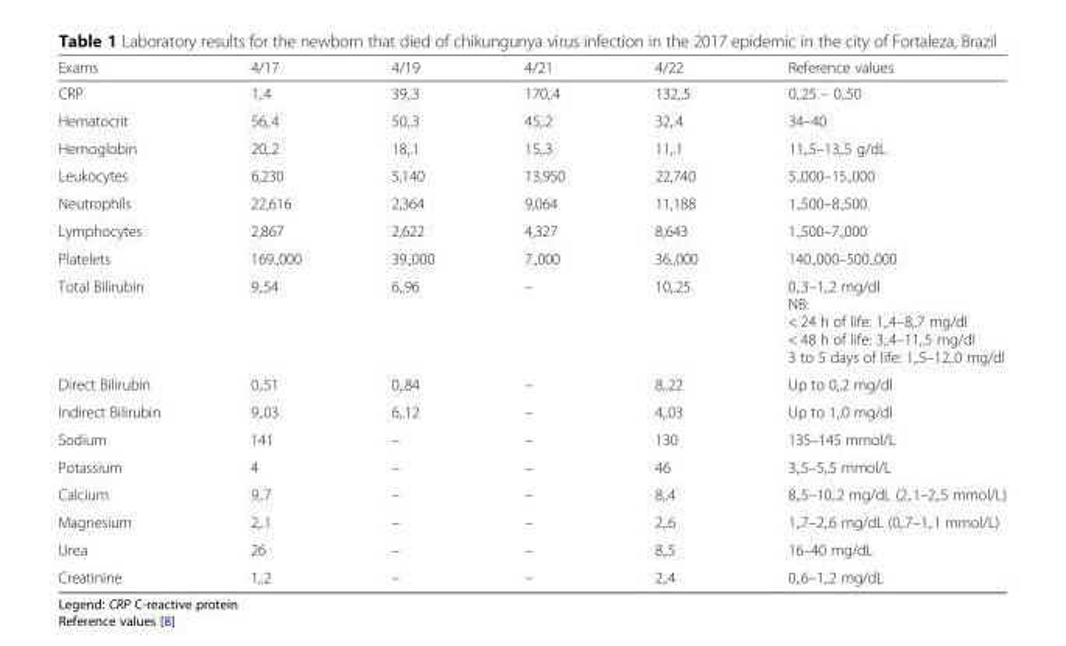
<table><thead><tr><td>Exams</td><td>4/17</td><td>4/19</td><td>4/21</td><td>4/22</td><td>Reference values</td></tr></thead><tbody><tr><td>CRP</td><td>1,.4</td><td>39,.3</td><td>170,.4</td><td>132,.5</td><td>0,.25 – 0,.50</td></tr><tr><td>Hematocrit</td><td>56,.4</td><td>50,.3</td><td>45,.2</td><td>32,.4</td><td>34–40</td></tr><tr><td>Hemoglobin</td><td>20,.2</td><td>18,.1</td><td>15,.3</td><td>11,.1</td><td>11,.5–13,.5 g/dL</td></tr><tr><td>Leukocytes</td><td>6,230</td><td>5,140</td><td>13,950</td><td>22,740</td><td>5.,000–15.,000</td></tr><tr><td>Neutrophils</td><td>22,616</td><td>2,364</td><td>9,064</td><td>11,188</td><td>1.,500–8.,500</td></tr><tr><td>Lymphocytes</td><td>2,867</td><td>2,622</td><td>4,327</td><td>8,643</td><td>1.,500–7.,000</td></tr><tr><td>Platelets</td><td>169.,000</td><td>39.,000</td><td>7.,000</td><td>36.,000</td><td>140.,000–500.,000</td></tr><tr><td>Total Bilirubin</td><td>9,.54</td><td>6,.96</td><td>–</td><td>10,.25</td><td>0,.3–1,.2 mg/dl NB: &lt; 24 h of life: 1,.4–8,.7 mg/dl &lt; 48 h of life: 3,.4–11,.5 mg/dl 3 to 5 days of life: 1,.5–12,.0 mg/dl</td></tr><tr><td>Direct Bilirubin</td><td>0,.51</td><td>0,.84</td><td>–</td><td>8,.22</td><td>Up to 0,.2 mg/dl</td></tr><tr><td>Indirect Bilirubin</td><td>9,.03</td><td>6,.12</td><td>–</td><td>4,.03</td><td>Up to 1,.0 mg/dl</td></tr><tr><td>Sodium</td><td>141</td><td>–</td><td>–</td><td>130</td><td>135–145 mmol/L</td></tr><tr><td>Potassium</td><td>4</td><td>–</td><td>–</td><td>46</td><td>3,.5–5,.5 mmol/L</td></tr><tr><td>Calcium</td><td>9,.7</td><td>–</td><td>–</td><td>8,.4</td><td>8,.5–10,.2 mg/dL (2,.1–2,.5 mmol/L)</td></tr><tr><td>Magnesium</td><td>2,.1</td><td>–</td><td>–</td><td>2,.6</td><td>1,.7–2,.6 mg/dL (0,.7–1,.1 mmol/L)</td></tr><tr><td>Urea</td><td>26</td><td>–</td><td>–</td><td>8,.5</td><td>16–40 mg/dL</td></tr><tr><td>Creatinine</td><td>1,.2</td><td>–</td><td>–</td><td>2,.4</td><td>0,.6–1,.2 mg/dL</td></tr></tbody></table>